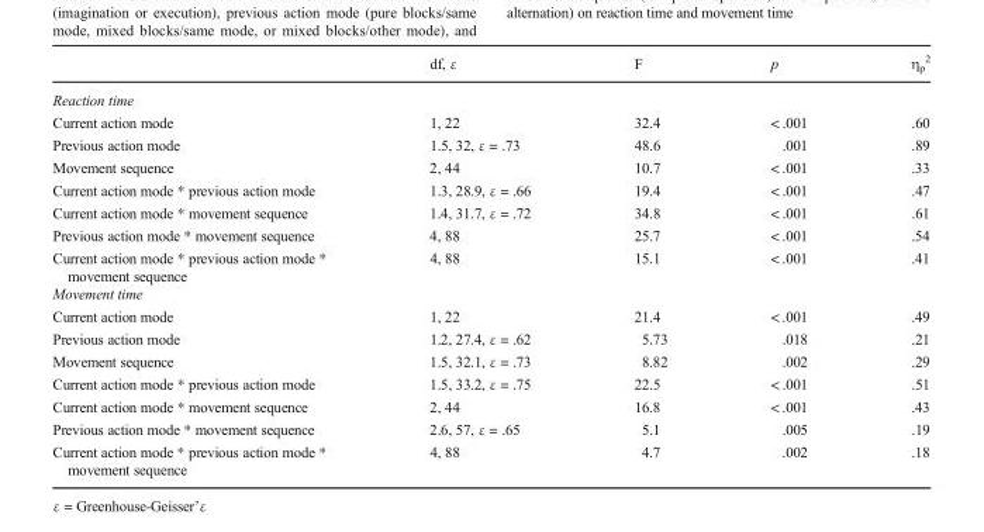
<table><thead><tr><td></td><td>df, ε</td><td>F</td><td>p</td><td>η<sub>p</sub> <sup>2</sup></td></tr></thead><tbody><tr><td colspan="5">Reaction time</td></tr><tr><td>Current action mode</td><td>1, 22</td><td>32.4</td><td>&lt; .001</td><td>.60</td></tr><tr><td>Previous action mode</td><td>1.5, 32, ε = .73</td><td>48.6</td><td>.001</td><td>.89</td></tr><tr><td>Movement sequence</td><td>2, 44</td><td>10.7</td><td>&lt; .001</td><td>.33</td></tr><tr><td>Current action mode * previous action mode</td><td>1.3, 28.9, ε = .66</td><td>19.4</td><td>&lt; .001</td><td>.47</td></tr><tr><td>Current action mode * movement sequence</td><td>1.4, 31.7, ε = .72</td><td>34.8</td><td>&lt; .001</td><td>.61</td></tr><tr><td>Previous action mode * movement sequence</td><td>4, 88</td><td>25.7</td><td>&lt; .001</td><td>.54</td></tr><tr><td>Current action mode * previous action mode * movement sequence</td><td>4, 88</td><td>15.1</td><td>&lt; .001</td><td>.41</td></tr><tr><td colspan="5">Movement time</td></tr><tr><td>Current action mode</td><td>1, 22</td><td>21.4</td><td>&lt; .001</td><td>.49</td></tr><tr><td>Previous action mode</td><td>1.2, 27.4, ε = .62</td><td>5.73</td><td>.018</td><td>.21</td></tr><tr><td>Movement sequence</td><td>1.5, 32.1, ε = .73</td><td>8.82</td><td>.002</td><td>.29</td></tr><tr><td>Current action mode * previous action mode</td><td>1.5, 33.2, ε = .75</td><td>22.5</td><td>&lt; .001</td><td>.51</td></tr><tr><td>Current action mode * movement sequence</td><td>2, 44</td><td>16.8</td><td>&lt; .001</td><td>.43</td></tr><tr><td>Previous action mode * movement sequence</td><td>2.6, 57, ε = .65</td><td>5.1</td><td>.005</td><td>.19</td></tr><tr><td>Current action mode * previous action mode * movement sequence</td><td>4, 88</td><td>4.7</td><td>.002</td><td>.18</td></tr></tbody></table>